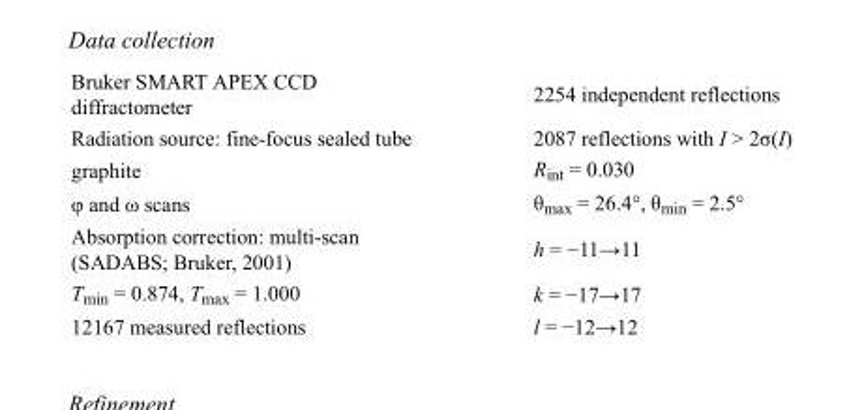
<table><tbody><tr><td>Bruker SMART APEX CCD diffractometer</td><td>2254 independent reflections</td></tr><tr><td>Radiation source: fine-focus sealed tube</td><td>2087 reflections with I &gt; 2σ(I)</td></tr><tr><td>graphite</td><td>R<sub>int</sub> = 0.030</td></tr><tr><td>φ and ω scans</td><td>θ<sub>max</sub> = 26.4°, θ<sub>min</sub> = 2.5°</td></tr><tr><td>Absorption correction: multi-scan (SADABS; Bruker, 2001)</td><td>h = −11→11</td></tr><tr><td>T<sub>min</sub> = 0.874, T<sub>max</sub> = 1.000</td><td>k = −17→17</td></tr><tr><td>12167 measured reflections</td><td>l = −12→12</td></tr></tbody></table>